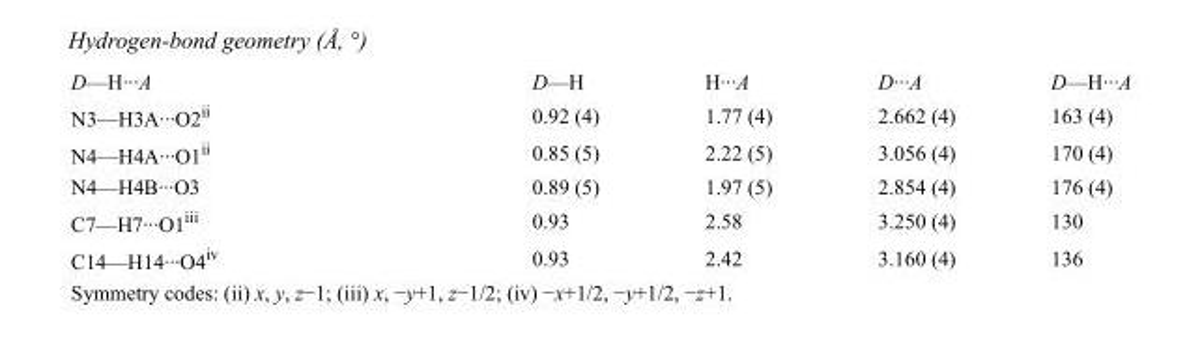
<table><tbody><tr><td>D—H···A</td><td>D—H</td><td>H···A</td><td>D···A</td><td>D—H···A</td></tr><tr><td>N3—H3A···O2<sup>ii</sup></td><td>0.92 (4)</td><td>1.77 (4)</td><td>2.662 (4)</td><td>163 (4)</td></tr><tr><td>N4—H4A···O1<sup>ii</sup></td><td>0.85 (5)</td><td>2.22 (5)</td><td>3.056 (4)</td><td>170 (4)</td></tr><tr><td>N4—H4B···O3</td><td>0.89 (5)</td><td>1.97 (5)</td><td>2.854 (4)</td><td>176 (4)</td></tr><tr><td>C7—H7···O1<sup>iii</sup></td><td>0.93</td><td>2.58</td><td>3.250 (4)</td><td>130</td></tr><tr><td>C14—H14···O4<sup>iv</sup></td><td>0.93</td><td>2.42</td><td>3.160 (4)</td><td>136</td></tr></tbody></table>